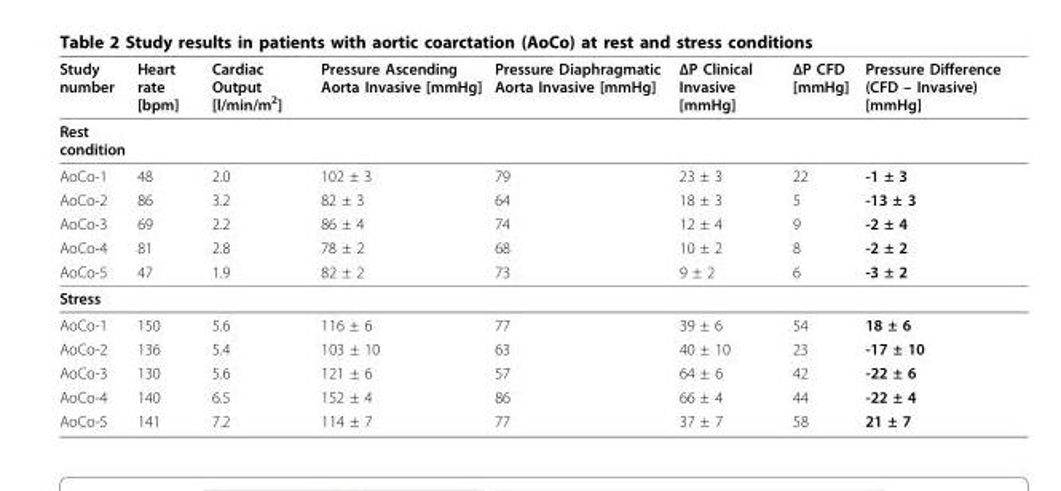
<table><thead><tr><td>Study number</td><td>Heart rate [bpm]</td><td>Cardiac Output [l/min/m<sup>2</sup>]</td><td>Pressure Ascending Aorta Invasive [mmHg]</td><td>Pressure Diaphragmatic Aorta Invasive [mmHg]</td><td>ΔP Clinical Invasive [mmHg]</td><td>ΔP CFD [mmHg]</td><td>Pressure Difference (CFD – Invasive) [mmHg]</td></tr></thead><tbody><tr><td colspan="8">Rest condition</td></tr><tr><td>AoCo-1</td><td>48</td><td>2.0</td><td>102 ± 3</td><td>79</td><td>23 ± 3</td><td>22</td><td>-1 ± 3</td></tr><tr><td>AoCo-2</td><td>86</td><td>3.2</td><td>82 ± 3</td><td>64</td><td>18 ± 3</td><td>5</td><td>-13 ± 3</td></tr><tr><td>AoCo-3</td><td>69</td><td>2.2</td><td>86 ± 4</td><td>74</td><td>12 ± 4</td><td>9</td><td>-2 ± 4</td></tr><tr><td>AoCo-4</td><td>81</td><td>2.8</td><td>78 ± 2</td><td>68</td><td>10 ± 2</td><td>8</td><td>-2 ± 2</td></tr><tr><td>AoCo-5</td><td>47</td><td>1.9</td><td>82 ± 2</td><td>73</td><td>9 ± 2</td><td>6</td><td>-3 ± 2</td></tr><tr><td colspan="8">Stress</td></tr><tr><td>AoCo-1</td><td>150</td><td>5.6</td><td>116 ± 6</td><td>77</td><td>39 ± 6</td><td>54</td><td>18 ± 6</td></tr><tr><td>AoCo-2</td><td>136</td><td>5.4</td><td>103 ± 10</td><td>63</td><td>40 ± 10</td><td>23</td><td>-17 ± 10</td></tr><tr><td>AoCo-3</td><td>130</td><td>5.6</td><td>121 ± 6</td><td>57</td><td>64 ± 6</td><td>42</td><td>-22 ± 6</td></tr><tr><td>AoCo-4</td><td>140</td><td>6.5</td><td>152 ± 4</td><td>86</td><td>66 ± 4</td><td>44</td><td>-22 ± 4</td></tr><tr><td>AoCo-5</td><td>141</td><td>7.2</td><td>114 ± 7</td><td>77</td><td>37 ± 7</td><td>58</td><td>21 ± 7</td></tr></tbody></table>